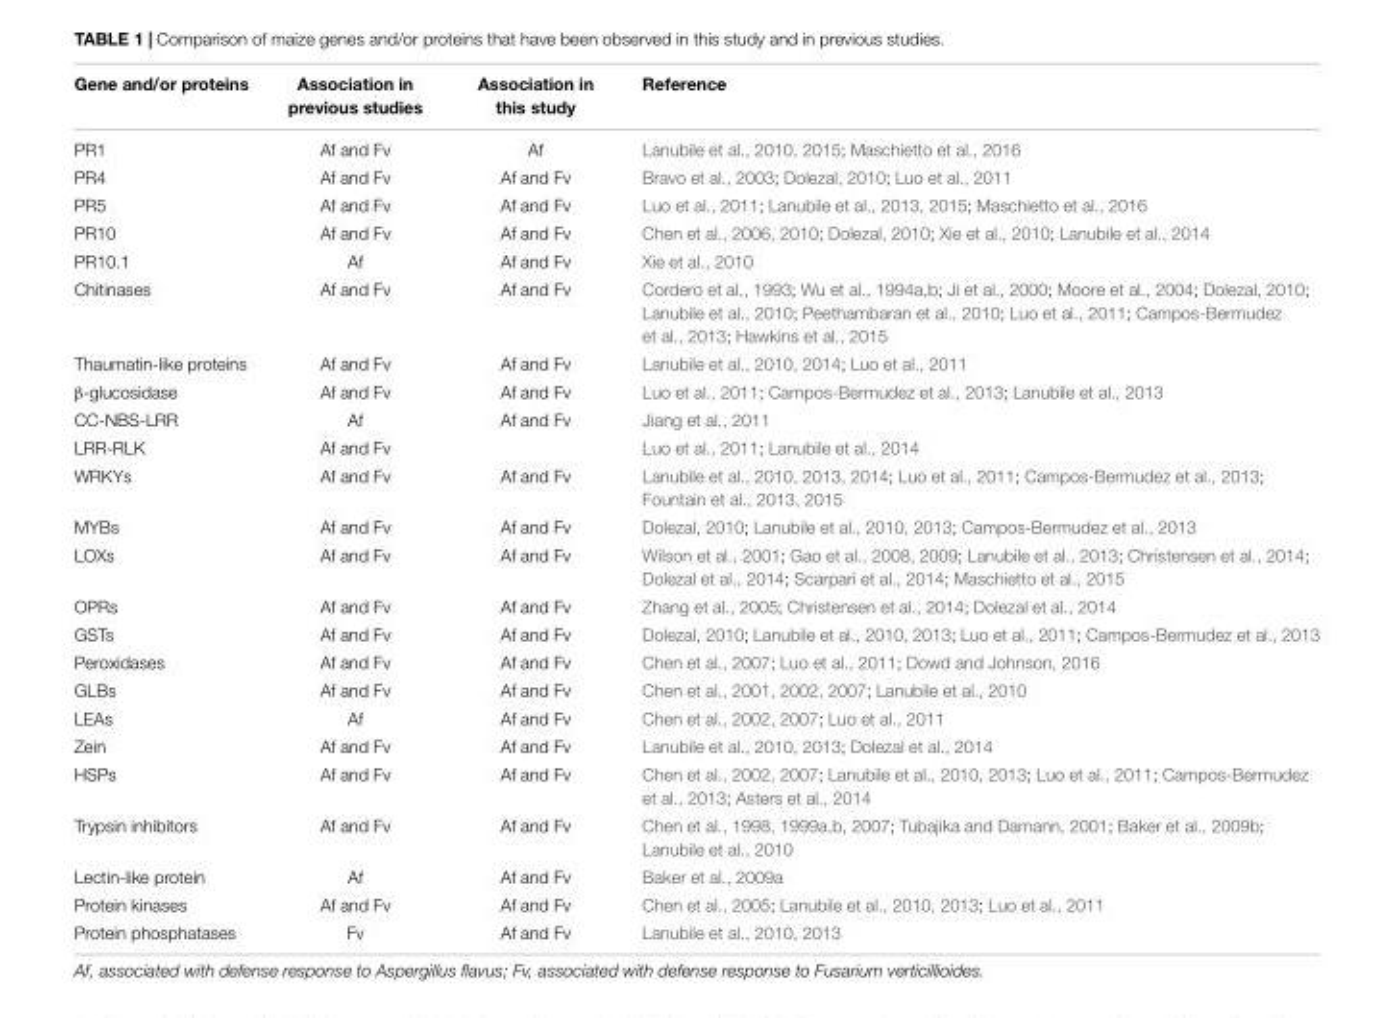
<table><thead><tr><td>Gene and/or proteins</td><td>Association in previous studies</td><td>Association in this study</td><td>Reference</td></tr></thead><tbody><tr><td>PR1</td><td>Af and Fv</td><td>Af</td><td>Lanubile et al., 2010, 2015; Maschietto et al., 2016</td></tr><tr><td>PR4</td><td>Af and Fv</td><td>Af and Fv</td><td>Bravo et al., 2003; Dolezal, 2010; Luo et al., 2011</td></tr><tr><td>PR5</td><td>Af and Fv</td><td>Af and Fv</td><td>Luo et al., 2011; Lanubile et al., 2013, 2015; Maschietto et al., 2016</td></tr><tr><td>PR10</td><td>Af and Fv</td><td>Af and Fv</td><td>Chen et al., 2006, 2010; Dolezal, 2010; Xie et al., 2010; Lanubile et al., 2014</td></tr><tr><td>PR10.1</td><td>Af</td><td>Af and Fv</td><td>Xie et al., 2010</td></tr><tr><td>Chitinases</td><td>Af and Fv</td><td>Af and Fv</td><td>Cordero et al., 1993; Wu et al., 1994a,b; Ji et al., 2000; Moore et al., 2004; Dolezal, 2010; Lanubile et al., 2010; Peethambaran et al., 2010; Luo et al., 2011; Campos-Bermudez et al., 2013; Hawkins et al., 2015</td></tr><tr><td>Thaumatin-like proteins</td><td>Af and Fv</td><td>Af and Fv</td><td>Lanubile et al., 2010, 2014; Luo et al., 2011</td></tr><tr><td>β-glucosidase</td><td>Af and Fv</td><td>Af and Fv</td><td>Luo et al., 2011; Campos-Bermudez et al., 2013; Lanubile et al., 2013</td></tr><tr><td>CC-NBS-LRR</td><td>Af</td><td>Af and Fv</td><td>Jiang et al., 2011</td></tr><tr><td>LRR-RLK</td><td>Af and Fv</td><td></td><td>Luo et al., 2011; Lanubile et al., 2014</td></tr><tr><td>WRKYs</td><td>Af and Fv</td><td>Af and Fv</td><td>Lanubile et al., 2010, 2013, 2014; Luo et al., 2011; Campos-Bermudez et al., 2013; Fountain et al., 2013, 2015</td></tr><tr><td>MYBs</td><td>Af and Fv</td><td>Af and Fv</td><td>Dolezal, 2010; Lanubile et al., 2010, 2013; Campos-Bermudez et al., 2013</td></tr><tr><td>LOXs</td><td>Af and Fv</td><td>Af and Fv</td><td>Wilson et al., 2001; Gao et al., 2008, 2009; Lanubile et al., 2013; Christensen et al., 2014; Dolezal et al., 2014; Scarpari et al., 2014; Maschietto et al., 2015</td></tr><tr><td>OPRs</td><td>Af and Fv</td><td>Af and Fv</td><td>Zhang et al., 2005; Christensen et al., 2014; Dolezal et al., 2014</td></tr><tr><td>GSTs</td><td>Af and Fv</td><td>Af and Fv</td><td>Dolezal, 2010; Lanubile et al., 2010, 2013; Luo et al., 2011; Campos-Bermudez et al., 2013</td></tr><tr><td>Peroxidases</td><td>Af and Fv</td><td>Af and Fv</td><td>Chen et al., 2007; Luo et al., 2011; Dowd and Johnson, 2016</td></tr><tr><td>GLBs</td><td>Af and Fv</td><td>Af and Fv</td><td>Chen et al., 2001, 2002, 2007; Lanubile et al., 2010</td></tr><tr><td>LEAs</td><td>Af</td><td>Af and Fv</td><td>Chen et al., 2002, 2007; Luo et al., 2011</td></tr><tr><td>Zein</td><td>Af and Fv</td><td>Af and Fv</td><td>Lanubile et al., 2010, 2013; Dolezal et al., 2014</td></tr><tr><td>HSPs</td><td>Af and Fv</td><td>Af and Fv</td><td>Chen et al., 2002, 2007; Lanubile et al., 2010, 2013; Luo et al., 2011; Campos-Bermudez et al., 2013; Asters et al., 2014</td></tr><tr><td>Trypsin inhibitors</td><td>Af and Fv</td><td>Af and Fv</td><td>Chen et al., 1998, 1999a,b, 2007; Tubajika and Damann, 2001; Baker et al., 2009b; Lanubile et al., 2010</td></tr><tr><td>Lectin-like protein</td><td>Af</td><td>Af and Fv</td><td>Baker et al., 2009a</td></tr><tr><td>Protein kinases</td><td>Af and Fv</td><td>Af and Fv</td><td>Chen et al., 2005; Lanubile et al., 2010, 2013; Luo et al., 2011</td></tr><tr><td>Protein phosphatases</td><td>Fv</td><td>Af and Fv</td><td>Lanubile et al., 2010, 2013</td></tr></tbody></table>